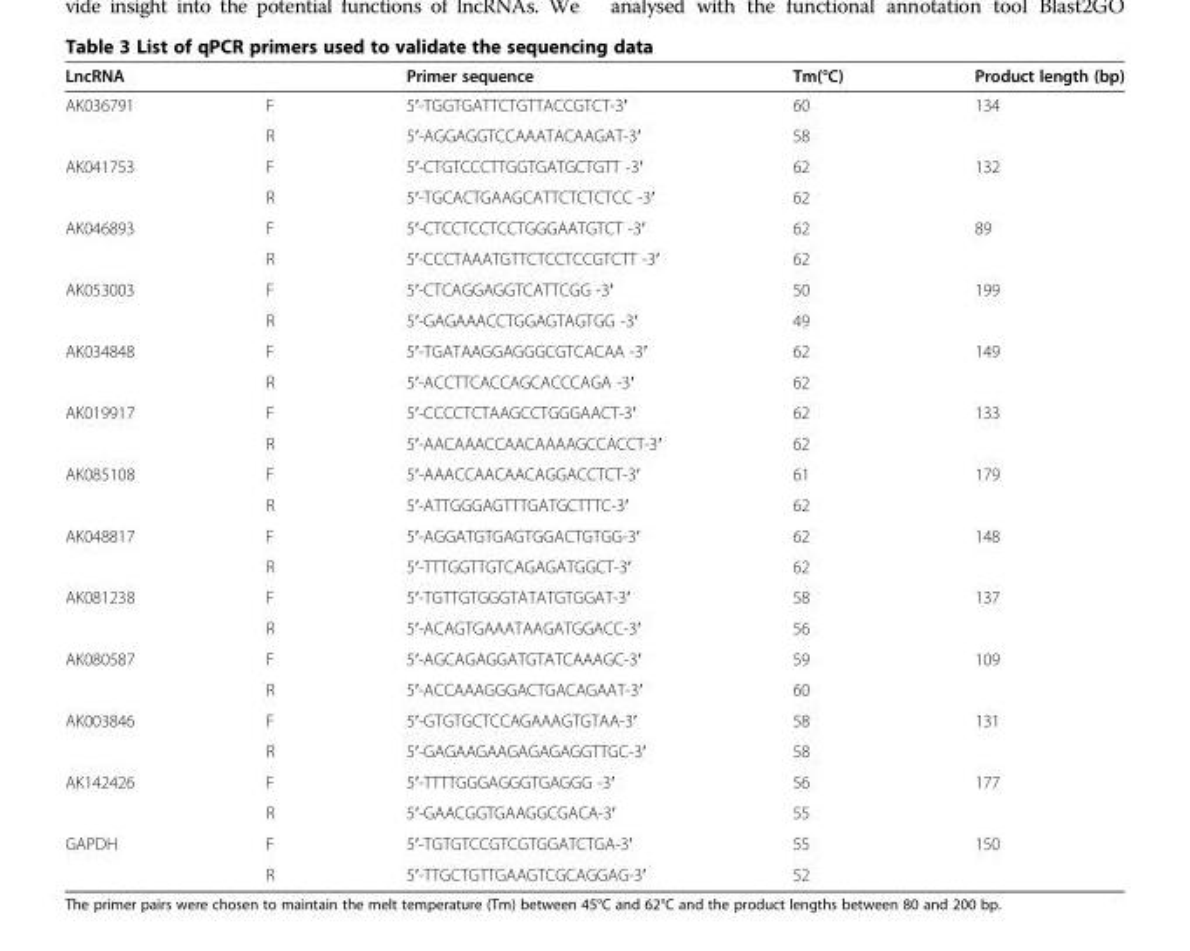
<table><thead><tr><td>LncRNA</td><td></td><td>Primer sequence</td><td>Tm(°C)</td><td>Product length (bp)</td></tr></thead><tbody><tr><td rowspan="2">AK036791</td><td>F</td><td>5′-TGGTGATTCTGTTACCGTCT-3′</td><td>60</td><td rowspan="2">134</td></tr><tr><td>R</td><td>5′-AGGAGGTCCAAATACAAGAT-3′</td><td>58</td></tr><tr><td rowspan="2">AK041753</td><td>F</td><td>5′-CTGTCCCTTGGTGATGCTGTT -3′</td><td>62</td><td rowspan="2">132</td></tr><tr><td>R</td><td>5′-TGCACTGAAGCATTCTCTCTCC -3′</td><td>62</td></tr><tr><td rowspan="2">AK046893</td><td>F</td><td>5′-CTCCTCCTCCTGGGAATGTCT -3′</td><td>62</td><td rowspan="2">89</td></tr><tr><td>R</td><td>5′-CCCTAAATGTTCTCCTCCGTCTT -3′</td><td>62</td></tr><tr><td rowspan="2">AK053003</td><td>F</td><td>5′-CTCAGGAGGTCATTCGG -3′</td><td>50</td><td rowspan="2">199</td></tr><tr><td>R</td><td>5′-GAGAAACCTGGAGTAGTGG -3′</td><td>49</td></tr><tr><td rowspan="2">AK034848</td><td>F</td><td>5′-TGATAAGGAGGGCGTCACAA -3′</td><td>62</td><td rowspan="2">149</td></tr><tr><td>R</td><td>5′-ACCTTCACCAGCACCCAGA -3′</td><td>62</td></tr><tr><td rowspan="2">AK019917</td><td>F</td><td>5′-CCCCTCTAAGCCTGGGAACT-3′</td><td>62</td><td rowspan="2">133</td></tr><tr><td>R</td><td>5′-AACAAACCAACAAAAGCCACCT-3′</td><td>62</td></tr><tr><td rowspan="2">AK085108</td><td>F</td><td>5′-AAACCAACAACAGGACCTCT-3′</td><td>61</td><td rowspan="2">179</td></tr><tr><td>R</td><td>5′-ATTGGGAGTTTGATGCTTTC-3′</td><td>62</td></tr><tr><td rowspan="2">AK048817</td><td>F</td><td>5′-AGGATGTGAGTGGACTGTGG-3′</td><td>62</td><td rowspan="2">148</td></tr><tr><td>R</td><td>5′-TTTGGTTGTCAGAGATGGCT-3′</td><td>62</td></tr><tr><td rowspan="2">AK081238</td><td>F</td><td>5′-TGTTGTGGGTATATGTGGAT-3′</td><td>58</td><td rowspan="2">137</td></tr><tr><td>R</td><td>5′-ACAGTGAAATAAGATGGACC-3′</td><td>56</td></tr><tr><td rowspan="2">AK080587</td><td>F</td><td>5′-AGCAGAGGATGTATCAAAGC-3′</td><td>59</td><td rowspan="2">109</td></tr><tr><td>R</td><td>5′-ACCAAAGGGACTGACAGAAT-3′</td><td>60</td></tr><tr><td rowspan="2">AK003846</td><td>F</td><td>5′-GTGTGCTCCAGAAAGTGTAA-3′</td><td>58</td><td rowspan="2">131</td></tr><tr><td>R</td><td>5′-GAGAAGAAGAGAGAGGTTGC-3′</td><td>58</td></tr><tr><td rowspan="2">AK142426</td><td>F</td><td>5′-TTTTGGGAGGGTGAGGG -3′</td><td>56</td><td rowspan="2">177</td></tr><tr><td>R</td><td>5′-GAACGGTGAAGGCGACA-3′</td><td>55</td></tr><tr><td rowspan="2">GAPDH</td><td>F</td><td>5′-TGTGTCCGTCGTGGATCTGA-3′</td><td>55</td><td rowspan="2">150</td></tr><tr><td>R</td><td>5′-TTGCTGTTGAAGTCGCAGGAG-3′</td><td>52</td></tr></tbody></table>